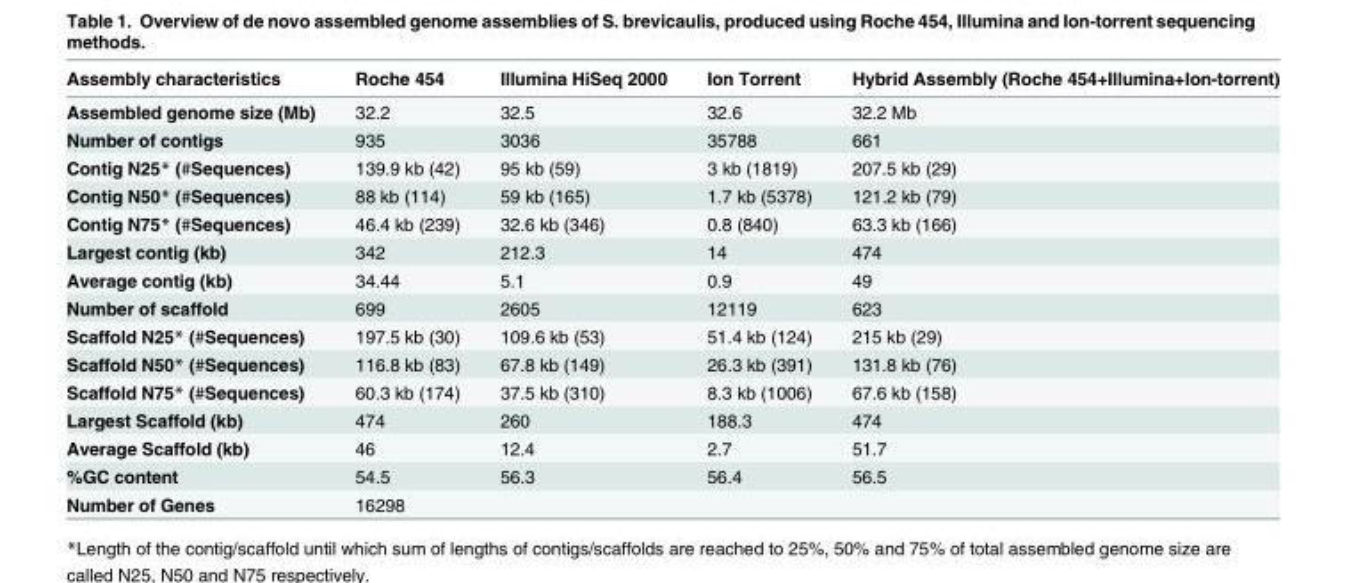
<table><thead><tr><td>Assembly characteristics</td><td>Roche 454</td><td>Illumina HiSeq 2000</td><td>Ion Torrent</td><td>Hybrid Assembly (Roche 454+Illumina+Ion-torrent)</td></tr></thead><tbody><tr><td>Assembled genome size (Mb)</td><td>32.2</td><td>32.5</td><td>32.6</td><td>32.2 Mb</td></tr><tr><td>Number of contigs</td><td>935</td><td>3036</td><td>35788</td><td>661</td></tr><tr><td>Contig N25* (#Sequences)</td><td>139.9 kb (42)</td><td>95 kb (59)</td><td>3 kb (1819)</td><td>207.5 kb (29)</td></tr><tr><td>Contig N50* (#Sequences)</td><td>88 kb (114)</td><td>59 kb (165)</td><td>1.7 kb (5378)</td><td>121.2 kb (79)</td></tr><tr><td>Contig N75* (#Sequences)</td><td>46.4 kb (239)</td><td>32.6 kb (346)</td><td>0.8 (840)</td><td>63.3 kb (166)</td></tr><tr><td>Largest contig (kb)</td><td>342</td><td>212.3</td><td>14</td><td>474</td></tr><tr><td>Average contig (kb)</td><td>34.44</td><td>5.1</td><td>0.9</td><td>49</td></tr><tr><td>Number of scaffold</td><td>699</td><td>2605</td><td>12119</td><td>623</td></tr><tr><td>Scaffold N25* (#Sequences)</td><td>197.5 kb (30)</td><td>109.6 kb (53)</td><td>51.4 kb (124)</td><td>215 kb (29)</td></tr><tr><td>Scaffold N50* (#Sequences)</td><td>116.8 kb (83)</td><td>67.8 kb (149)</td><td>26.3 kb (391)</td><td>131.8 kb (76)</td></tr><tr><td>Scaffold N75* (#Sequences)</td><td>60.3 kb (174)</td><td>37.5 kb (310)</td><td>8.3 kb (1006)</td><td>67.6 kb (158)</td></tr><tr><td>Largest Scaffold (kb)</td><td>474</td><td>260</td><td>188.3</td><td>474</td></tr><tr><td>Average Scaffold (kb)</td><td>46</td><td>12.4</td><td>2.7</td><td>51.7</td></tr><tr><td>%GC content</td><td>54.5</td><td>56.3</td><td>56.4</td><td>56.5</td></tr><tr><td>Number of Genes</td><td colspan="4">16298</td></tr></tbody></table>